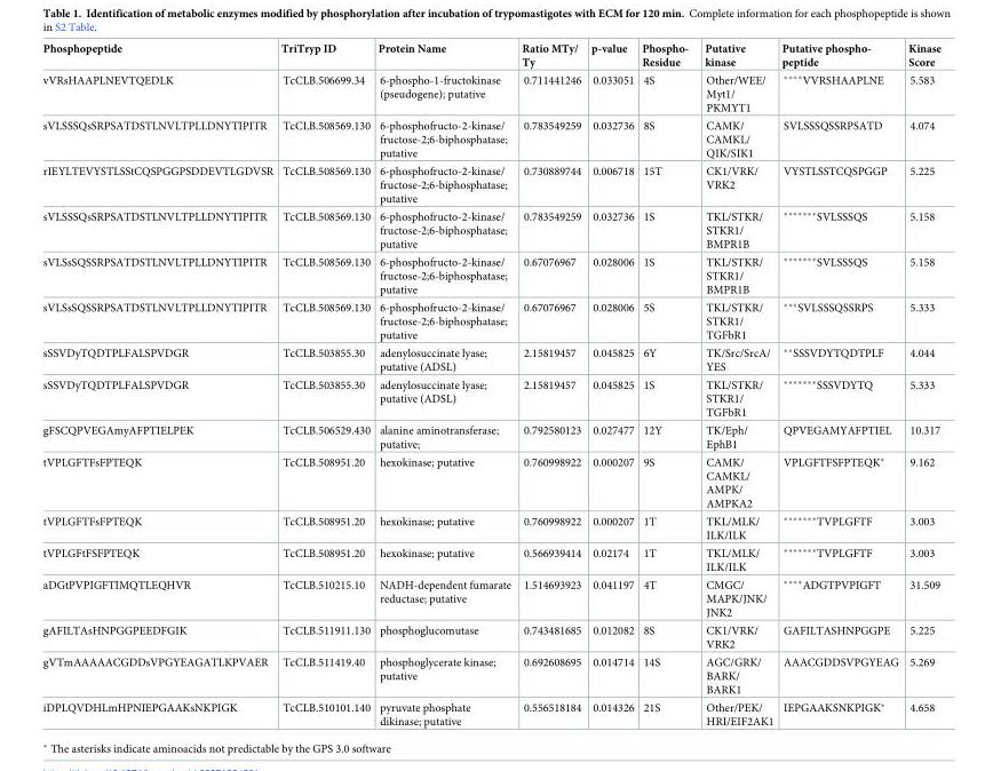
<table><thead><tr><td>Phosphopeptide</td><td>TriTryp ID</td><td>Protein Name</td><td>Ratio MTy/ Ty</td><td>p-value</td><td>Phospho- Residue</td><td>Putative kinase</td><td>Putative phospho- peptide</td><td>Kinase Score</td></tr></thead><tbody><tr><td>vVRsHAAPLNEVTQEDLK</td><td>TcCLB.506699.34</td><td>6-phospho-1-fructokinase (pseudogene); putative</td><td>0.711441246</td><td>0.033051</td><td>4S</td><td>Other/WEE/ Myt1/ PKMYT1</td><td>****VVRSHAAPLNE</td><td>5.583</td></tr><tr><td>sVLSSSQsSRPSATDSTLNVLTPLLDNYTIPITR</td><td>TcCLB.508569.130</td><td>6-phosphofructo-2-kinase/ fructose-2;6-biphosphatase; putative</td><td>0.783549259</td><td>0.032736</td><td>8S</td><td>CAMK/ CAMKL/ QIK/SIK1</td><td>SVLSSSQSSRPSATD</td><td>4.074</td></tr><tr><td>rIEYLTEVYSTLSStCQSPGGPSDDEVTLGDVSR</td><td>TcCLB.508569.130</td><td>6-phosphofructo-2-kinase/ fructose-2;6-biphosphatase; putative</td><td>0.730889744</td><td>0.006718</td><td>15T</td><td>CK1/VRK/ VRK2</td><td>VYSTLSSTCQSPGGP</td><td>5.225</td></tr><tr><td>sVLSSSQsSRPSATDSTLNVLTPLLDNYTIPITR</td><td>TcCLB.508569.130</td><td>6-phosphofructo-2-kinase/ fructose-2;6-biphosphatase; putative</td><td>0.783549259</td><td>0.032736</td><td>1S</td><td>TKL/STKR/ STKR1/ BMPR1B</td><td>*******SVLSSSQS</td><td>5.158</td></tr><tr><td>sVLSsSQSSRPSATDSTLNVLTPLLDNYTIPITR</td><td>TcCLB.508569.130</td><td>6-phosphofructo-2-kinase/ fructose-2;6-biphosphatase; putative</td><td>0.67076967</td><td>0.028006</td><td>1S</td><td>TKL/STKR/ STKR1/ BMPR1B</td><td>*******SVLSSSQS</td><td>5.158</td></tr><tr><td>sVLSsSQSSRPSATDSTLNVLTPLLDNYTIPITR</td><td>TcCLB.508569.130</td><td>6-phosphofructo-2-kinase/ fructose-2;6-biphosphatase; putative</td><td>0.67076967</td><td>0.028006</td><td>5S</td><td>TKL/STKR/ STKR1/ TGFbR1</td><td>***SVLSSSQSSRPS</td><td>5.333</td></tr><tr><td>sSSVDyTQDTPLFALSPVDGR</td><td>TcCLB.503855.30</td><td>adenylosuccinate lyase; putative (ADSL)</td><td>2.15819457</td><td>0.045825</td><td>6Y</td><td>TK/Src/SrcA/ YES</td><td>**SSSVDYTQDTPLF</td><td>4.044</td></tr><tr><td>sSSVDyTQDTPLFALSPVDGR</td><td>TcCLB.503855.30</td><td>adenylosuccinate lyase; putative (ADSL)</td><td>2.15819457</td><td>0.045825</td><td>1S</td><td>TKL/STKR/ STKR1/ TGFbR1</td><td>*******SSSVDYTQ</td><td>5.333</td></tr><tr><td>gFSCQPVEGAmyAFPTIELPEK</td><td>TcCLB.506529.430</td><td>alanine aminotransferase; putative;</td><td>0.792580123</td><td>0.027477</td><td>12Y</td><td>TK/Eph/ EphB1</td><td>QPVEGAMYAFPTIEL</td><td>10.317</td></tr><tr><td>tVPLGFTFsFPTEQK</td><td>TcCLB.508951.20</td><td>hexokinase; putative</td><td>0.760998922</td><td>0.000207</td><td>9S</td><td>CAMK/ CAMKL/ AMPK/ AMPKA2</td><td>VPLGFTFSFPTEQK*</td><td>9.162</td></tr><tr><td>tVPLGFTFsFPTEQK</td><td>TcCLB.508951.20</td><td>hexokinase; putative</td><td>0.760998922</td><td>0.000207</td><td>1T</td><td>TKL/MLK/ ILK/ILK</td><td>*******TVPLGFTF</td><td>3.003</td></tr><tr><td>tVPLGFtFSFPTEQK</td><td>TcCLB.508951.20</td><td>hexokinase; putative</td><td>0.566939414</td><td>0.02174</td><td>1T</td><td>TKL/MLK/ ILK/ILK</td><td>*******TVPLGFTF</td><td>3.003</td></tr><tr><td>aDGtPVPIGFTIMQTLEQHVR</td><td>TcCLB.510215.10</td><td>NADH-dependent fumarate reductase; putative</td><td>1.514693923</td><td>0.041197</td><td>4T</td><td>CMGC/ MAPK/JNK/ JNK2</td><td>****ADGTPVPIGFT</td><td>31.509</td></tr><tr><td>gAFILTAsHNPGGPEEDFGIK</td><td>TcCLB.511911.130</td><td>phosphoglucomutase</td><td>0.743481685</td><td>0.012082</td><td>8S</td><td>CK1/VRK/ VRK2</td><td>GAFILTASHNPGGPE</td><td>5.225</td></tr><tr><td>gVTmAAAAACGDDsVPGYEAGATLKPVAER</td><td>TcCLB.511419.40</td><td>phosphoglycerate kinase; putative</td><td>0.692608695</td><td>0.014714</td><td>14S</td><td>AGC/GRK/ BARK/ BARK1</td><td>AAACGDDSVPGYEAG</td><td>5.269</td></tr><tr><td>iDPLQVDHLmHPNIEPGAAKsNKPIGK</td><td>TcCLB.510101.140</td><td>pyruvate phosphate dikinase; putative</td><td>0.556518184</td><td>0.014326</td><td>21S</td><td>Other/PEK/ HRI/EIF2AK1</td><td>IEPGAAKSNKPIGK*</td><td>4.658</td></tr></tbody></table>